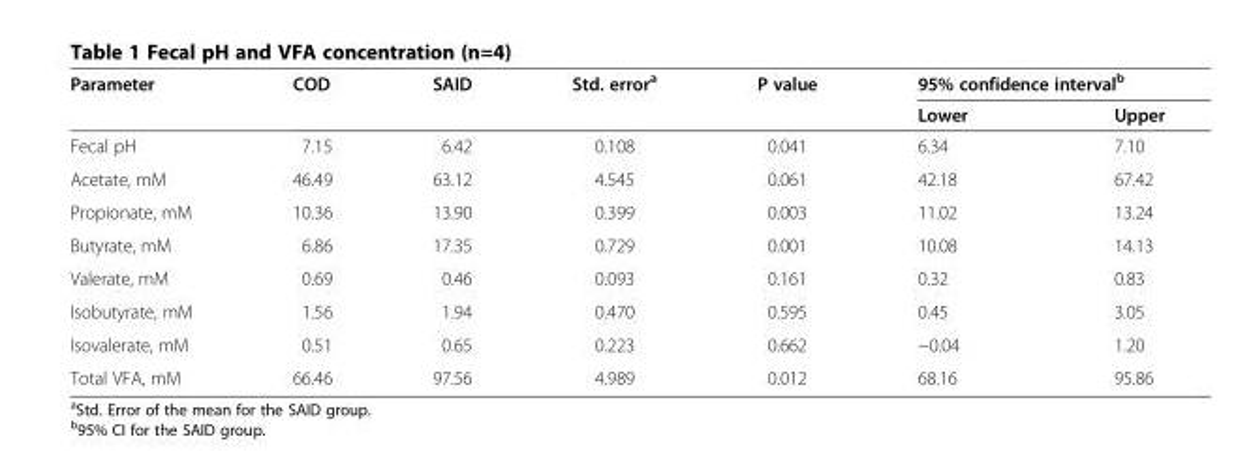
<table><thead><tr><td rowspan="2">Parameter</td><td rowspan="2">COD</td><td rowspan="2">SAID</td><td rowspan="2">Std. error<sup>a</sup></td><td rowspan="2">P value</td><td colspan="2">95% confidence interval<sup>b</sup></td></tr><tr><td>Lower</td><td>Upper</td></tr></thead><tbody><tr><td>Fecal pH</td><td>7.15</td><td>6.42</td><td>0.108</td><td>0.041</td><td>6.34</td><td>7.10</td></tr><tr><td>Acetate, mM</td><td>46.49</td><td>63.12</td><td>4.545</td><td>0.061</td><td>42.18</td><td>67.42</td></tr><tr><td>Propionate, mM</td><td>10.36</td><td>13.90</td><td>0.399</td><td>0.003</td><td>11.02</td><td>13.24</td></tr><tr><td>Butyrate, mM</td><td>6.86</td><td>17.35</td><td>0.729</td><td>0.001</td><td>10.08</td><td>14.13</td></tr><tr><td>Valerate, mM</td><td>0.69</td><td>0.46</td><td>0.093</td><td>0.161</td><td>0.32</td><td>0.83</td></tr><tr><td>Isobutyrate, mM</td><td>1.56</td><td>1.94</td><td>0.470</td><td>0.595</td><td>0.45</td><td>3.05</td></tr><tr><td>Isovalerate, mM</td><td>0.51</td><td>0.65</td><td>0.223</td><td>0.662</td><td>−0.04</td><td>1.20</td></tr><tr><td>Total VFA, mM</td><td>66.46</td><td>97.56</td><td>4.989</td><td>0.012</td><td>68.16</td><td>95.86</td></tr></tbody></table>